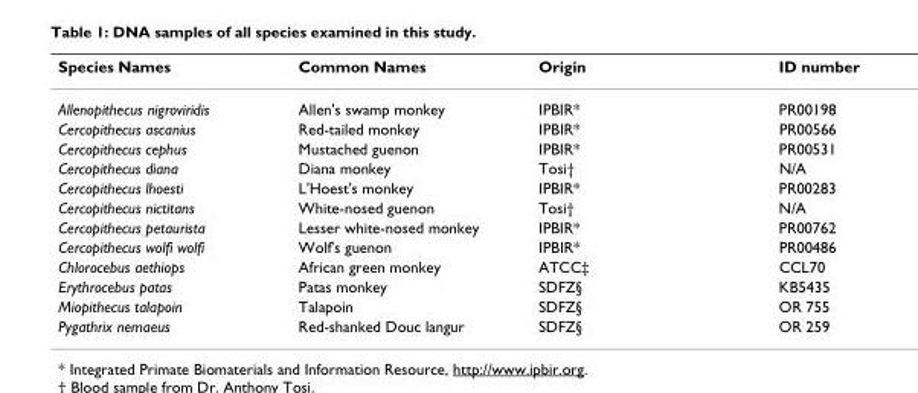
<table><thead><tr><td>Species Names</td><td>Common Names</td><td>Origin</td><td>ID number</td></tr></thead><tbody><tr><td>Allenopithecus nigroviridis</td><td>Allen&#x27;s swamp monkey</td><td>IPBIR*</td><td>PR00198</td></tr><tr><td>Cercopithecus ascanius</td><td>Red-tailed monkey</td><td>IPBIR*</td><td>PR00566</td></tr><tr><td>Cercopithecus cephus</td><td>Mustached guenon</td><td>IPBIR*</td><td>PR00531</td></tr><tr><td>Cercopithecus diana</td><td>Diana monkey</td><td>Tosi†</td><td>N/A</td></tr><tr><td>Cercopithecus lhoesti</td><td>L&#x27;Hoest&#x27;s monkey</td><td>IPBIR*</td><td>PR00283</td></tr><tr><td>Cercopithecus nictitans</td><td>White-nosed guenon</td><td>Tosi†</td><td>N/A</td></tr><tr><td>Cercopithecus petaurista</td><td>Lesser white-nosed monkey</td><td>IPBIR*</td><td>PR00762</td></tr><tr><td>Cercopithecus wolfi wolfi</td><td>Wolf&#x27;s guenon</td><td>IPBIR*</td><td>PR00486</td></tr><tr><td>Chlorocebus aethiops</td><td>African green monkey</td><td>ATCC‡</td><td>CCL70</td></tr><tr><td>Erythrocebus patas</td><td>Patas monkey</td><td>SDFZ§</td><td>KB5435</td></tr><tr><td>Miopithecus talapoin</td><td>Talapoin</td><td>SDFZ§</td><td>OR 755</td></tr><tr><td>Pygathrix nemaeus</td><td>Red-shanked Douc langur</td><td>SDFZ§</td><td>OR 259</td></tr></tbody></table>